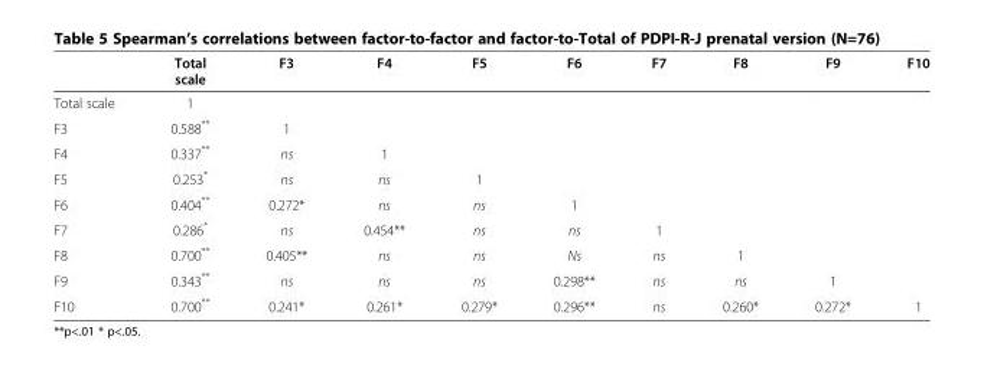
<table><thead><tr><td></td><td>Total scale</td><td>F3</td><td>F4</td><td>F5</td><td>F6</td><td>F7</td><td>F8</td><td>F9</td><td>F10</td></tr></thead><tbody><tr><td>Total scale</td><td>1</td><td></td><td></td><td></td><td></td><td></td><td></td><td></td><td></td></tr><tr><td>F3</td><td>0.588**</td><td>1</td><td></td><td></td><td></td><td></td><td></td><td></td><td></td></tr><tr><td>F4</td><td>0.337**</td><td>ns</td><td>1</td><td></td><td></td><td></td><td></td><td></td><td></td></tr><tr><td>F5</td><td>0.253*</td><td>ns</td><td>ns</td><td>1</td><td></td><td></td><td></td><td></td><td></td></tr><tr><td>F6</td><td>0.404**</td><td>0.272*</td><td>ns</td><td>ns</td><td>1</td><td></td><td></td><td></td><td></td></tr><tr><td>F7</td><td>0.286*</td><td>ns</td><td>0.454**</td><td>ns</td><td>ns</td><td>1</td><td></td><td></td><td></td></tr><tr><td>F8</td><td>0.700**</td><td>0.405**</td><td>ns</td><td>ns</td><td>Ns</td><td>ns</td><td>1</td><td></td><td></td></tr><tr><td>F9</td><td>0.343**</td><td>ns</td><td>ns</td><td>ns</td><td>0.298**</td><td>ns</td><td>ns</td><td>1</td><td></td></tr><tr><td>F10</td><td>0.700**</td><td>0.241*</td><td>0.261*</td><td>0.279*</td><td>0.296**</td><td>ns</td><td>0.260*</td><td>0.272*</td><td>1</td></tr></tbody></table>